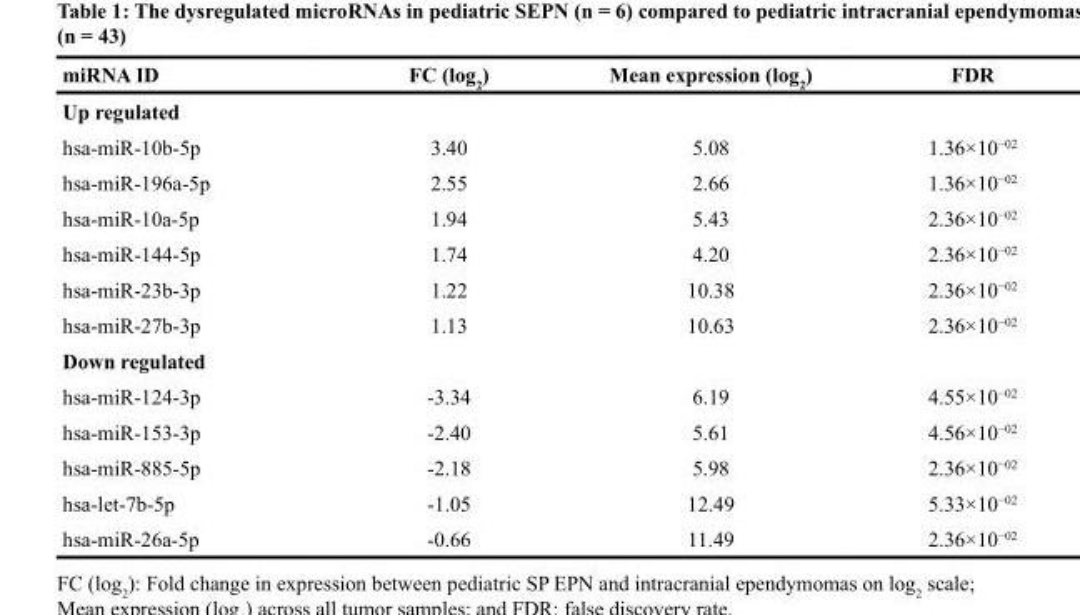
<table><thead><tr><td>miRNA ID</td><td>FC (log<sub>2</sub>)</td><td>Mean expression (log<sub>2</sub>)</td><td>FDR</td></tr></thead><tbody><tr><td colspan="4">Up regulated</td></tr><tr><td>hsa-miR-10b-5p</td><td>3.40</td><td>5.08</td><td>1.36×10<sup>−02</sup></td></tr><tr><td>hsa-miR-196a-5p</td><td>2.55</td><td>2.66</td><td>1.36×10<sup>−02</sup></td></tr><tr><td>hsa-miR-10a-5p</td><td>1.94</td><td>5.43</td><td>2.36×10<sup>−02</sup></td></tr><tr><td>hsa-miR-144-5p</td><td>1.74</td><td>4.20</td><td>2.36×10<sup>−02</sup></td></tr><tr><td>hsa-miR-23b-3p</td><td>1.22</td><td>10.38</td><td>2.36×10<sup>−02</sup></td></tr><tr><td>hsa-miR-27b-3p</td><td>1.13</td><td>10.63</td><td>2.36×10<sup>−02</sup></td></tr><tr><td colspan="4">Down regulated</td></tr><tr><td>hsa-miR-124-3p</td><td>-3.34</td><td>6.19</td><td>4.55×10<sup>−02</sup></td></tr><tr><td>hsa-miR-153-3p</td><td>-2.40</td><td>5.61</td><td>4.56×10<sup>−02</sup></td></tr><tr><td>hsa-miR-885-5p</td><td>-2.18</td><td>5.98</td><td>2.36×10<sup>−02</sup></td></tr><tr><td>hsa-let-7b-5p</td><td>-1.05</td><td>12.49</td><td>5.33×10<sup>−02</sup></td></tr><tr><td>hsa-miR-26a-5p</td><td>-0.66</td><td>11.49</td><td>2.36×10<sup>−02</sup></td></tr></tbody></table>